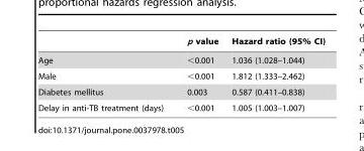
<table><thead><tr><td></td><td>p value</td><td>Hazard ratio (95% CI)</td></tr></thead><tbody><tr><td>Age</td><td>&lt;0.001</td><td>1.036 (1.028–1.044)</td></tr><tr><td>Male</td><td>&lt;0.001</td><td>1.812 (1.333–2.462)</td></tr><tr><td>Diabetes mellitus</td><td>0.003</td><td>0.587 (0.411–0.838)</td></tr><tr><td>Delay in anti-TB treatment (days)</td><td>&lt;0.001</td><td>1.005 (1.003–1.007)</td></tr></tbody></table>